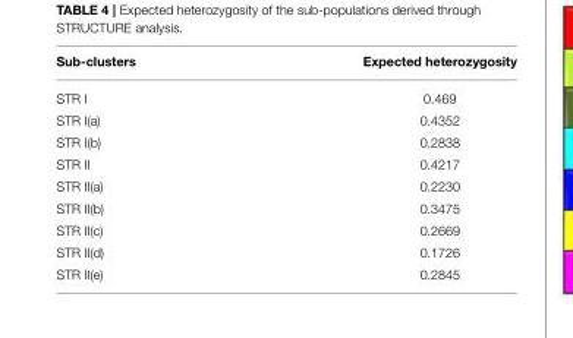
<table><thead><tr><td>Sub-clusters</td><td>Expected heterozygosity</td></tr></thead><tbody><tr><td>STR I</td><td>0.469</td></tr><tr><td>STR I(a)</td><td>0.4352</td></tr><tr><td>STR I(b)</td><td>0.2838</td></tr><tr><td>STR II</td><td>0.4217</td></tr><tr><td>STR II(a)</td><td>0.2230</td></tr><tr><td>STR II(b)</td><td>0.3475</td></tr><tr><td>STR II(c)</td><td>0.2669</td></tr><tr><td>STR II(d)</td><td>0.1726</td></tr><tr><td>STR II(e)</td><td>0.2845</td></tr></tbody></table>